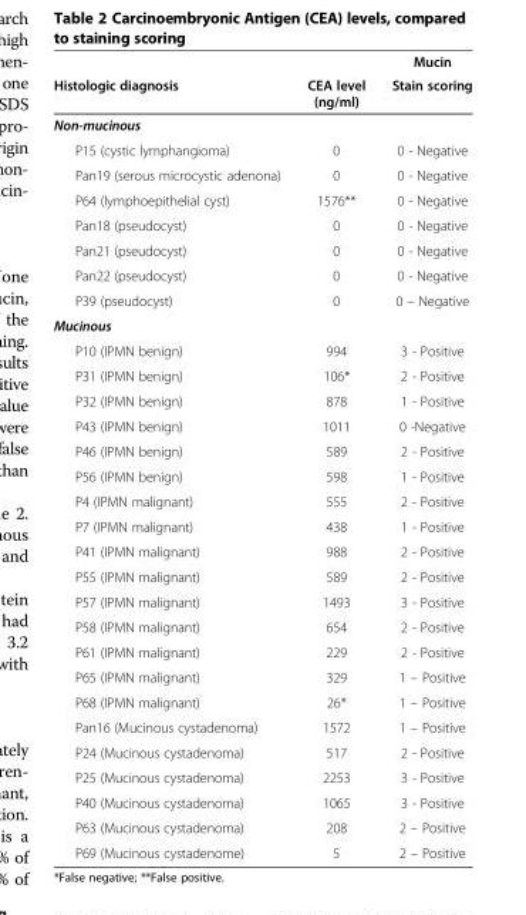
<table><thead><tr><td rowspan="2">Histologic diagnosis</td><td rowspan="2">CEA level (ng/ml)</td><td rowspan="2">Mucin Stain scoring</td></tr><tr></tr></thead><tbody><tr><td colspan="3">Non-mucinous</td></tr><tr><td>P15 (cystic lymphangioma)</td><td>0</td><td>0 - Negative</td></tr><tr><td>Pan19 (serous microcystic adenona)</td><td>0</td><td>0 - Negative</td></tr><tr><td>P64 (lymphoepithelial cyst)</td><td>1576**</td><td>0 - Negative</td></tr><tr><td>Pan18 (pseudocyst)</td><td>0</td><td>0 - Negative</td></tr><tr><td>Pan21 (pseudocyst)</td><td>0</td><td>0 - Negative</td></tr><tr><td>Pan22 (pseudocyst)</td><td>0</td><td>0 - Negative</td></tr><tr><td>P39 (pseudocyst)</td><td>0</td><td>0 – Negative</td></tr><tr><td colspan="3">Mucinous</td></tr><tr><td>P10 (IPMN benign)</td><td>994</td><td>3 - Positive</td></tr><tr><td>P31 (IPMN benign)</td><td>106*</td><td>2 - Positive</td></tr><tr><td>P32 (IPMN benign)</td><td>878</td><td>1 - Positive</td></tr><tr><td>P43 (IPMN benign)</td><td>1011</td><td>0 -Negative</td></tr><tr><td>P46 (IPMN benign)</td><td>589</td><td>2 - Positive</td></tr><tr><td>P56 (IPMN benign)</td><td>598</td><td>1 - Positive</td></tr><tr><td>P4 (IPMN malignant)</td><td>555</td><td>2 - Positive</td></tr><tr><td>P7 (IPMN malignant)</td><td>438</td><td>1 - Positive</td></tr><tr><td>P41 (IPMN malignant)</td><td>988</td><td>2 - Positive</td></tr><tr><td>P55 (IPMN malignant)</td><td>589</td><td>2 - Positive</td></tr><tr><td>P57 (IPMN malignant)</td><td>1493</td><td>3 - Positive</td></tr><tr><td>P58 (IPMN malignant)</td><td>654</td><td>2 - Positive</td></tr><tr><td>P61 (IPMN malignant)</td><td>229</td><td>2 - Positive</td></tr><tr><td>P65 (IPMN malignant)</td><td>329</td><td>1 – Positive</td></tr><tr><td>P68 (IPMN malignant)</td><td>26*</td><td>1 – Positive</td></tr><tr><td>Pan16 (Mucinous cystadenoma)</td><td>1572</td><td>1 – Positive</td></tr><tr><td>P24 (Mucinous cystadenoma)</td><td>517</td><td>2 - Positive</td></tr><tr><td>P25 (Mucinous cystadenoma)</td><td>2253</td><td>3 - Positive</td></tr><tr><td>P40 (Mucinous cystadenoma)</td><td>1065</td><td>3 - Positive</td></tr><tr><td>P63 (Mucinous cystadenoma)</td><td>208</td><td>2 – Positive</td></tr><tr><td>P69 (Mucinous cystadenome)</td><td>5</td><td>2 – Positive</td></tr></tbody></table>